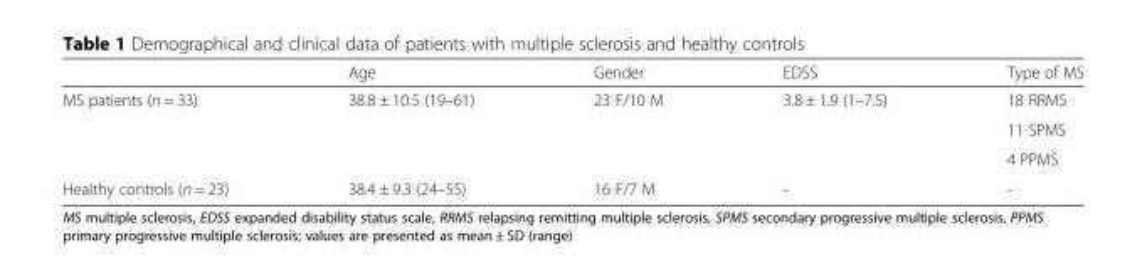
<table><thead><tr><td></td><td>Age</td><td>Gender</td><td>EDSS</td><td>Type of MS</td></tr></thead><tbody><tr><td rowspan="3">MS patients (n = 33)</td><td rowspan="3">38.8 ± 10.5 (19–61)</td><td rowspan="3">23 F/10 M</td><td rowspan="3">3.8 ± 1.9 (1–7.5)</td><td>18 RRMS</td></tr><tr><td>11 SPMS</td></tr><tr><td>4 PPMS</td></tr><tr><td>Healthy controls (n = 23)</td><td>38.4 ± 9.3 (24–55)</td><td>16 F/7 M</td><td>-</td><td>-</td></tr></tbody></table>